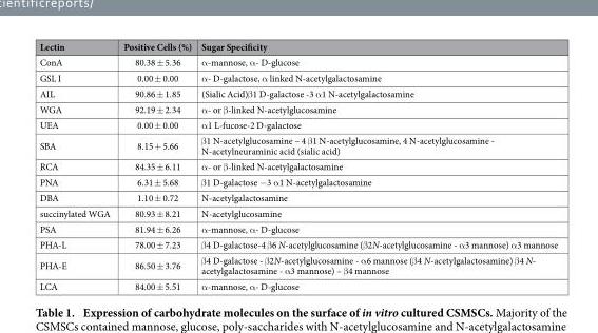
<table><thead><tr><td>Lectin</td><td>Positive Cells (%)</td><td>Sugar Specificity</td></tr></thead><tbody><tr><td>ConA</td><td>80.38 ± 5.36</td><td>α -mannose, α - D-glucose</td></tr><tr><td>GSL I</td><td>0.00 ± 0.00</td><td>α - D-galactose, α linked N-acetylgalactosamine</td></tr><tr><td>AIL</td><td>90.86 ± 1.85</td><td>(Sialic Acid)β 1 D-galactose -3 α 1 N-acetylgalactosamine</td></tr><tr><td>WGA</td><td>92.19 ± 2.34</td><td>α - or β -linked N-acetylglucosamine</td></tr><tr><td>UEA</td><td>0.00 ± 0.00</td><td>α 1 L-fucose-2 D-galactose</td></tr><tr><td>SBA</td><td>8.15 + 5.66</td><td>β 1 N-acetylglucosamine – 4 β 1 N-acetylglucosamine, 4 N-acetylglucosamine - N-acetylneuraminic acid (sialic acid)</td></tr><tr><td>RCA</td><td>84.35 ± 6.11</td><td>α - or β -linked N-acetylgalactosamine</td></tr><tr><td>PNA</td><td>6.31 ± 5.68</td><td>β 1 D-galactose − 3 α 1 N-acetylgalactosamine</td></tr><tr><td>DBA</td><td>1.10 ± 0.72</td><td>N-acetylgalactosamine</td></tr><tr><td>succinylated WGA</td><td>80.93 ± 8.21</td><td>N-acetylglucosamine</td></tr><tr><td>PSA</td><td>81.94 ± 6.26</td><td>α -mannose, α - D-glucose</td></tr><tr><td>PHA-L</td><td>78.00 ± 7.23</td><td>β 4 D-galactose-4 β 6 N-acetylglucosamine (β 2N-acetylglucosamine - α 3 mannose) α 3 mannose</td></tr><tr><td>PHA-E</td><td>86.50 ± 3.76</td><td>β 4 D-galactose - β 2N-acetylglucosamine - α 6 mannose (β 4 N-acetylgalactosamine) β 4 N- acetylgalactosamine - α 3 mannose) – β 4 mannose</td></tr><tr><td>LCA</td><td>84.00 ± 5.51</td><td>α -mannose, α - D-glucose</td></tr></tbody></table>